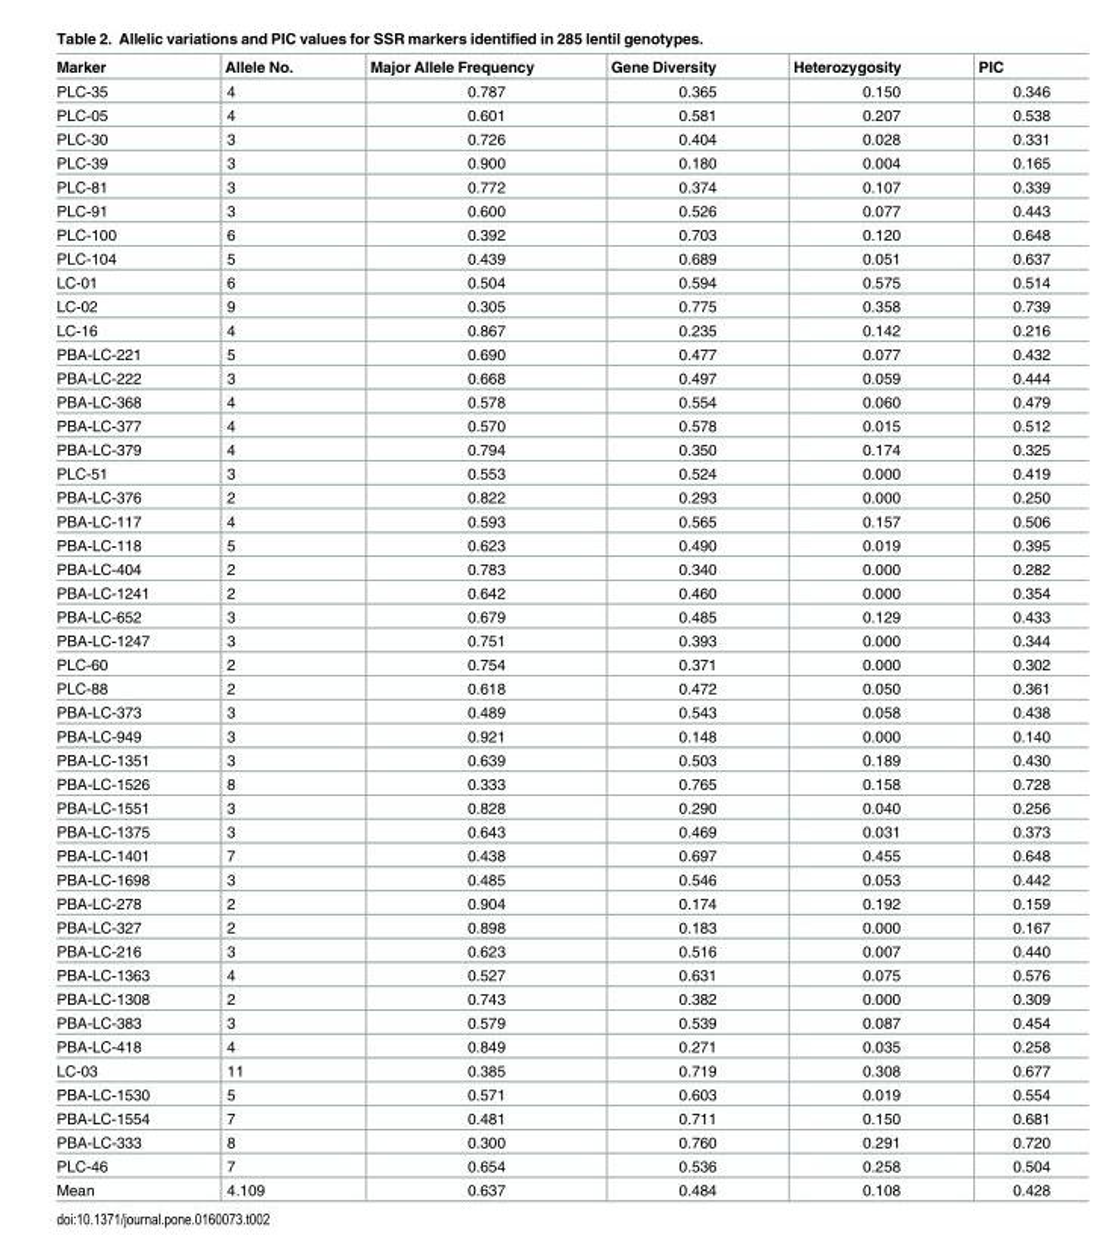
<table><thead><tr><td>Marker</td><td>Allele No.</td><td>Major Allele Frequency</td><td>Gene Diversity</td><td>Heterozygosity</td><td>PIC</td></tr></thead><tbody><tr><td>PLC-35</td><td>4</td><td>0.787</td><td>0.365</td><td>0.150</td><td>0.346</td></tr><tr><td>PLC-05</td><td>4</td><td>0.601</td><td>0.581</td><td>0.207</td><td>0.538</td></tr><tr><td>PLC-30</td><td>3</td><td>0.726</td><td>0.404</td><td>0.028</td><td>0.331</td></tr><tr><td>PLC-39</td><td>3</td><td>0.900</td><td>0.180</td><td>0.004</td><td>0.165</td></tr><tr><td>PLC-81</td><td>3</td><td>0.772</td><td>0.374</td><td>0.107</td><td>0.339</td></tr><tr><td>PLC-91</td><td>3</td><td>0.600</td><td>0.526</td><td>0.077</td><td>0.443</td></tr><tr><td>PLC-100</td><td>6</td><td>0.392</td><td>0.703</td><td>0.120</td><td>0.648</td></tr><tr><td>PLC-104</td><td>5</td><td>0.439</td><td>0.689</td><td>0.051</td><td>0.637</td></tr><tr><td>LC-01</td><td>6</td><td>0.504</td><td>0.594</td><td>0.575</td><td>0.514</td></tr><tr><td>LC-02</td><td>9</td><td>0.305</td><td>0.775</td><td>0.358</td><td>0.739</td></tr><tr><td>LC-16</td><td>4</td><td>0.867</td><td>0.235</td><td>0.142</td><td>0.216</td></tr><tr><td>PBA-LC-221</td><td>5</td><td>0.690</td><td>0.477</td><td>0.077</td><td>0.432</td></tr><tr><td>PBA-LC-222</td><td>3</td><td>0.668</td><td>0.497</td><td>0.059</td><td>0.444</td></tr><tr><td>PBA-LC-368</td><td>4</td><td>0.578</td><td>0.554</td><td>0.060</td><td>0.479</td></tr><tr><td>PBA-LC-377</td><td>4</td><td>0.570</td><td>0.578</td><td>0.015</td><td>0.512</td></tr><tr><td>PBA-LC-379</td><td>4</td><td>0.794</td><td>0.350</td><td>0.174</td><td>0.325</td></tr><tr><td>PLC-51</td><td>3</td><td>0.553</td><td>0.524</td><td>0.000</td><td>0.419</td></tr><tr><td>PBA-LC-376</td><td>2</td><td>0.822</td><td>0.293</td><td>0.000</td><td>0.250</td></tr><tr><td>PBA-LC-117</td><td>4</td><td>0.593</td><td>0.565</td><td>0.157</td><td>0.506</td></tr><tr><td>PBA-LC-118</td><td>5</td><td>0.623</td><td>0.490</td><td>0.019</td><td>0.395</td></tr><tr><td>PBA-LC-404</td><td>2</td><td>0.783</td><td>0.340</td><td>0.000</td><td>0.282</td></tr><tr><td>PBA-LC-1241</td><td>2</td><td>0.642</td><td>0.460</td><td>0.000</td><td>0.354</td></tr><tr><td>PBA-LC-652</td><td>3</td><td>0.679</td><td>0.485</td><td>0.129</td><td>0.433</td></tr><tr><td>PBA-LC-1247</td><td>3</td><td>0.751</td><td>0.393</td><td>0.000</td><td>0.344</td></tr><tr><td>PLC-60</td><td>2</td><td>0.754</td><td>0.371</td><td>0.000</td><td>0.302</td></tr><tr><td>PLC-88</td><td>2</td><td>0.618</td><td>0.472</td><td>0.050</td><td>0.361</td></tr><tr><td>PBA-LC-373</td><td>3</td><td>0.489</td><td>0.543</td><td>0.058</td><td>0.438</td></tr><tr><td>PBA-LC-949</td><td>3</td><td>0.921</td><td>0.148</td><td>0.000</td><td>0.140</td></tr><tr><td>PBA-LC-1351</td><td>3</td><td>0.639</td><td>0.503</td><td>0.189</td><td>0.430</td></tr><tr><td>PBA-LC-1526</td><td>8</td><td>0.333</td><td>0.765</td><td>0.158</td><td>0.728</td></tr><tr><td>PBA-LC-1551</td><td>3</td><td>0.828</td><td>0.290</td><td>0.040</td><td>0.256</td></tr><tr><td>PBA-LC-1375</td><td>3</td><td>0.643</td><td>0.469</td><td>0.031</td><td>0.373</td></tr><tr><td>PBA-LC-1401</td><td>7</td><td>0.438</td><td>0.697</td><td>0.455</td><td>0.648</td></tr><tr><td>PBA-LC-1698</td><td>3</td><td>0.485</td><td>0.546</td><td>0.053</td><td>0.442</td></tr><tr><td>PBA-LC-278</td><td>2</td><td>0.904</td><td>0.174</td><td>0.192</td><td>0.159</td></tr><tr><td>PBA-LC-327</td><td>2</td><td>0.898</td><td>0.183</td><td>0.000</td><td>0.167</td></tr><tr><td>PBA-LC-216</td><td>3</td><td>0.623</td><td>0.516</td><td>0.007</td><td>0.440</td></tr><tr><td>PBA-LC-1363</td><td>4</td><td>0.527</td><td>0.631</td><td>0.075</td><td>0.576</td></tr><tr><td>PBA-LC-1308</td><td>2</td><td>0.743</td><td>0.382</td><td>0.000</td><td>0.309</td></tr><tr><td>PBA-LC-383</td><td>3</td><td>0.579</td><td>0.539</td><td>0.087</td><td>0.454</td></tr><tr><td>PBA-LC-418</td><td>4</td><td>0.849</td><td>0.271</td><td>0.035</td><td>0.258</td></tr><tr><td>LC-03</td><td>11</td><td>0.385</td><td>0.719</td><td>0.308</td><td>0.677</td></tr><tr><td>PBA-LC-1530</td><td>5</td><td>0.571</td><td>0.603</td><td>0.019</td><td>0.554</td></tr><tr><td>PBA-LC-1554</td><td>7</td><td>0.481</td><td>0.711</td><td>0.150</td><td>0.681</td></tr><tr><td>PBA-LC-333</td><td>8</td><td>0.300</td><td>0.760</td><td>0.291</td><td>0.720</td></tr><tr><td>PLC-46</td><td>7</td><td>0.654</td><td>0.536</td><td>0.258</td><td>0.504</td></tr><tr><td>Mean</td><td>4.109</td><td>0.637</td><td>0.484</td><td>0.108</td><td>0.428</td></tr></tbody></table>